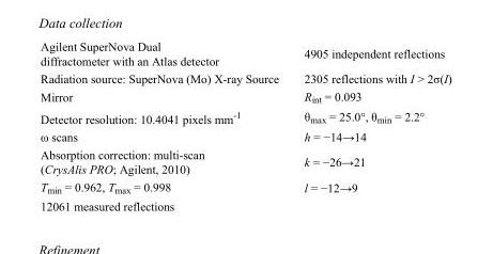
<table><tbody><tr><td>Agilent SuperNova Dual diffractometer with an Atlas detector</td><td>4905 independent reflections</td></tr><tr><td>Radiation source: SuperNova (Mo) X-ray Source</td><td>2305 reflections with I &gt; 2σ(I)</td></tr><tr><td>Mirror</td><td>R<sub>int</sub> = 0.093</td></tr><tr><td>Detector resolution: 10.4041 pixels mm<sup>-1</sup></td><td>θ<sub>max</sub> = 25.0°, θ<sub>min</sub> = 2.2°</td></tr><tr><td>ω scans</td><td>h = −14→14</td></tr><tr><td>Absorption correction: multi-scan (CrysAlis PRO; Agilent, 2010)</td><td>k = −26→21</td></tr><tr><td>T<sub>min</sub> = 0.962, T<sub>max</sub> = 0.998</td><td>l = −12→9</td></tr><tr><td>12061 measured reflections</td><td></td></tr></tbody></table>